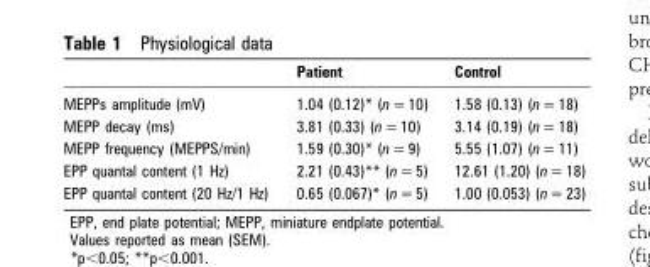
<table><thead><tr><td></td><td>Patient</td><td>Control</td></tr></thead><tbody><tr><td>MEPPs amplitude (mV)</td><td>1.04 (0.12)* (n = 10)</td><td>1.58 (0.13) (n = 18)</td></tr><tr><td>MEPP decay (ms)</td><td>3.81 (0.33) (n = 10)</td><td>3.14 (0.19) (n = 18)</td></tr><tr><td>MEPP frequency (MEPPS/min)</td><td>1.59 (0.30)* (n = 9)</td><td>5.55 (1.07) (n = 11)</td></tr><tr><td>EPP quantal content (1 Hz)</td><td>2.21 (0.43)** (n = 5)</td><td>12.61 (1.20) (n = 18)</td></tr><tr><td>EPP quantal content (20 Hz/1 Hz)</td><td>0.65 (0.067)* (n = 5)</td><td>1.00 (0.053) (n = 23)</td></tr></tbody></table>